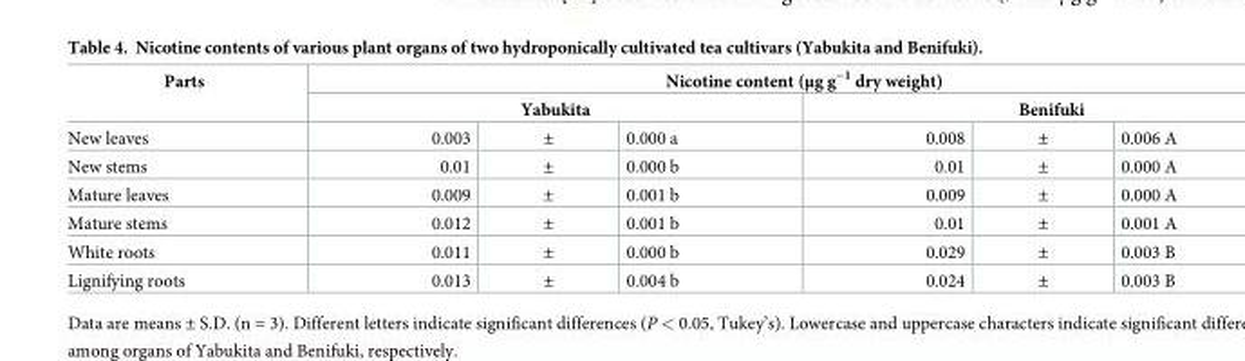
<table><thead><tr><td rowspan="3">Parts New leaves</td><td colspan="6">Nicotine content (μg g<sup>−1</sup> dry weight)</td></tr><tr><td colspan="3">Yabukita</td><td colspan="3">Benifuki</td></tr><tr><td>0.003</td><td>±</td><td>0.000 a</td><td>0.008</td><td>±</td><td>0.006 A</td></tr></thead><tbody><tr><td>New stems</td><td>0.01</td><td>±</td><td>0.000 b</td><td>0.01</td><td>±</td><td>0.000 A</td></tr><tr><td>Mature leaves</td><td>0.009</td><td>±</td><td>0.001 b</td><td>0.009</td><td>±</td><td>0.000 A</td></tr><tr><td>Mature stems</td><td>0.012</td><td>±</td><td>0.001 b</td><td>0.01</td><td>±</td><td>0.001 A</td></tr><tr><td>White roots</td><td>0.011</td><td>±</td><td>0.000 b</td><td>0.029</td><td>±</td><td>0.003 B</td></tr><tr><td>Lignifying roots</td><td>0.013</td><td>±</td><td>0.004 b</td><td>0.024</td><td>±</td><td>0.003 B</td></tr></tbody></table>